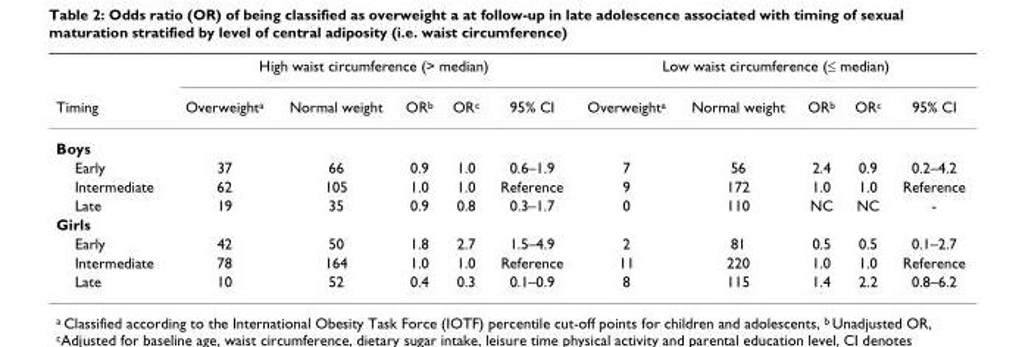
<table><thead><tr><td rowspan="2">Timing</td><td colspan="5">High waist circumference (&gt; median)</td><td colspan="5">Low waist circumference (≤ median)</td></tr><tr><td>Overweight<sup>a</sup></td><td>Normal weight</td><td>OR<sup>b</sup></td><td>OR<sup>c</sup></td><td>95% CI</td><td>Overweight<sup>a</sup></td><td>Normal weight</td><td>OR<sup>b</sup></td><td>OR<sup>c</sup></td><td>95% CI</td></tr></thead><tbody><tr><td colspan="11">Boys</td></tr><tr><td>Early</td><td>37</td><td>66</td><td>0.9</td><td>1.0</td><td>0.6–1.9</td><td>7</td><td>56</td><td>2.4</td><td>0.9</td><td>0.2–4.2</td></tr><tr><td>Intermediate</td><td>62</td><td>105</td><td>1.0</td><td>1.0</td><td>Reference</td><td>9</td><td>172</td><td>1.0</td><td>1.0</td><td>Reference</td></tr><tr><td>Late</td><td>19</td><td>35</td><td>0.9</td><td>0.8</td><td>0.3–1.7</td><td>0</td><td>110</td><td>NC</td><td>NC</td><td>-</td></tr><tr><td colspan="11">Girls</td></tr><tr><td>Early</td><td>42</td><td>50</td><td>1.8</td><td>2.7</td><td>1.5–4.9</td><td>2</td><td>81</td><td>0.5</td><td>0.5</td><td>0.1–2.7</td></tr><tr><td>Intermediate</td><td>78</td><td>164</td><td>1.0</td><td>1.0</td><td>Reference</td><td>11</td><td>220</td><td>1.0</td><td>1.0</td><td>Reference</td></tr><tr><td>Late</td><td>10</td><td>52</td><td>0.4</td><td>0.3</td><td>0.1–0.9</td><td>8</td><td>115</td><td>1.4</td><td>2.2</td><td>0.8–6.2</td></tr></tbody></table>